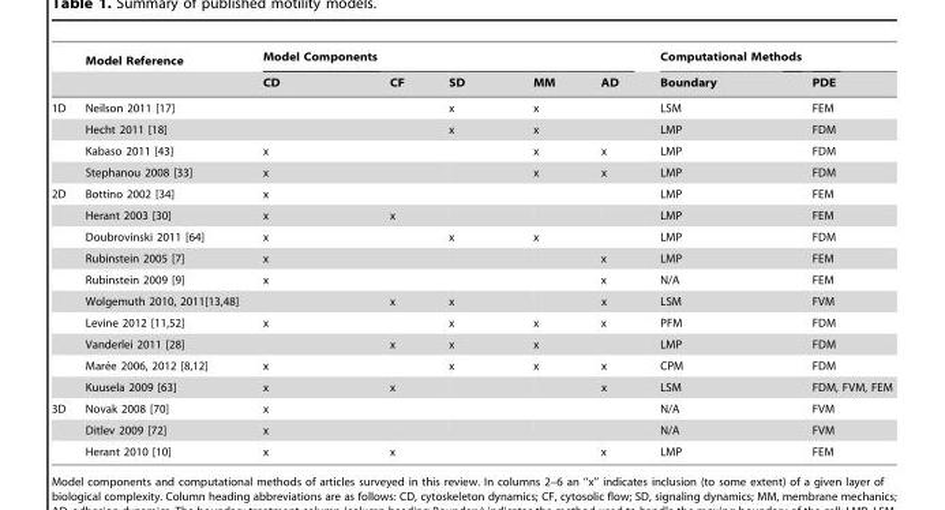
<table><thead><tr><td rowspan="2"></td><td rowspan="2">Model Reference</td><td rowspan="2">Model Components CD</td><td rowspan="2">CF</td><td rowspan="2">SD</td><td rowspan="2">MM</td><td rowspan="2">AD</td><td rowspan="2">Computational Methods Boundary</td><td rowspan="2">PDE</td></tr><tr></tr></thead><tbody><tr><td rowspan="4">1D</td><td>Neilson 2011 [17]</td><td></td><td></td><td>x</td><td>x</td><td></td><td>LSM</td><td>FEM</td></tr><tr><td>Hecht 2011 [18]</td><td></td><td></td><td>x</td><td>x</td><td></td><td>LMP</td><td>FDM</td></tr><tr><td>Kabaso 2011 [43]</td><td>x</td><td></td><td></td><td>x</td><td>x</td><td>LMP</td><td>FDM</td></tr><tr><td>Stephanou 2008 [33]</td><td>x</td><td></td><td></td><td>x</td><td>x</td><td>LMP</td><td>FDM</td></tr><tr><td rowspan="10">2D</td><td>Bottino 2002 [34]</td><td>x</td><td></td><td></td><td></td><td></td><td>LMP</td><td>FEM</td></tr><tr><td>Herant 2003 [30]</td><td>x</td><td>x</td><td></td><td></td><td></td><td>LMP</td><td>FEM</td></tr><tr><td>Doubrovinski 2011 [64]</td><td>x</td><td></td><td>x</td><td>x</td><td></td><td>LMP</td><td>FDM</td></tr><tr><td>Rubinstein 2005 [7]</td><td>x</td><td></td><td></td><td></td><td>x</td><td>LMP</td><td>FEM</td></tr><tr><td>Rubinstein 2009 [9]</td><td>x</td><td></td><td></td><td></td><td>x</td><td>N/A</td><td>FEM</td></tr><tr><td>Wolgemuth 2010, 2011[13,48]</td><td></td><td>x</td><td>x</td><td></td><td>x</td><td>LSM</td><td>FVM</td></tr><tr><td>Levine 2012 [11,52]</td><td>x</td><td></td><td>x</td><td>x</td><td>x</td><td>PFM</td><td>FDM</td></tr><tr><td>Vanderlei 2011 [28]</td><td></td><td>x</td><td>x</td><td>x</td><td></td><td>LMP</td><td>FDM</td></tr><tr><td>Mare´e 2006, 2012 [8,12]</td><td>x</td><td></td><td>x</td><td>x</td><td>x</td><td>CPM</td><td>FDM</td></tr><tr><td>Kuusela 2009 [63]</td><td>x</td><td>x</td><td></td><td></td><td>x</td><td>LSM</td><td>FDM, FVM, FEM</td></tr><tr><td rowspan="3">3D</td><td>Novak 2008 [70]</td><td>x</td><td></td><td></td><td></td><td></td><td>N/A</td><td>FVM</td></tr><tr><td>Ditlev 2009 [72]</td><td>x</td><td></td><td></td><td></td><td></td><td>N/A</td><td>FVM</td></tr><tr><td>Herant 2010 [10]</td><td>x</td><td>x</td><td></td><td></td><td>x</td><td>LMP</td><td>FEM</td></tr></tbody></table>